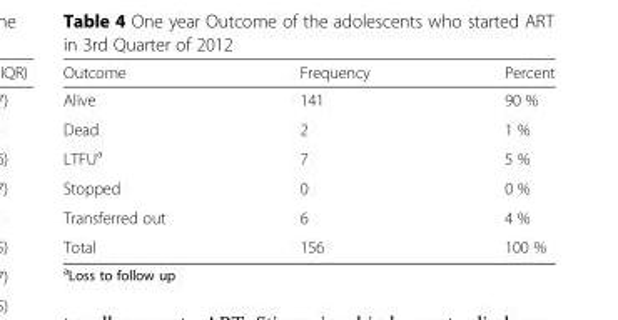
<table><thead><tr><td>Outcome</td><td>Frequency</td><td>Percent</td></tr></thead><tbody><tr><td>Alive</td><td>141</td><td>90 %</td></tr><tr><td>Dead</td><td>2</td><td>1 %</td></tr><tr><td>LTFU<sup>a</sup></td><td>7</td><td>5 %</td></tr><tr><td>Stopped</td><td>0</td><td>0 %</td></tr><tr><td>Transferred out</td><td>6</td><td>4 %</td></tr><tr><td>Total</td><td>156</td><td>100 %</td></tr></tbody></table>